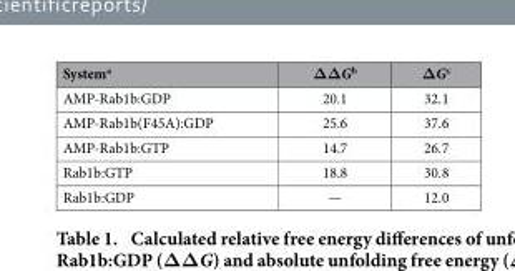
<table><thead><tr><td>System<sup>a</sup></td><td>ΔΔG<sup>b</sup></td><td>ΔG<sup>c</sup></td></tr></thead><tbody><tr><td>AMP-Rab1b:GDP</td><td>20.1</td><td>32.1</td></tr><tr><td>AMP-Rab1b(F45A):GDP</td><td>25.6</td><td>37.6</td></tr><tr><td>AMP-Rab1b:GTP</td><td>14.7</td><td>26.7</td></tr><tr><td>Rab1b:GTP</td><td>18.8</td><td>30.8</td></tr><tr><td>Rab1b:GDP</td><td>—</td><td>12.0</td></tr></tbody></table>